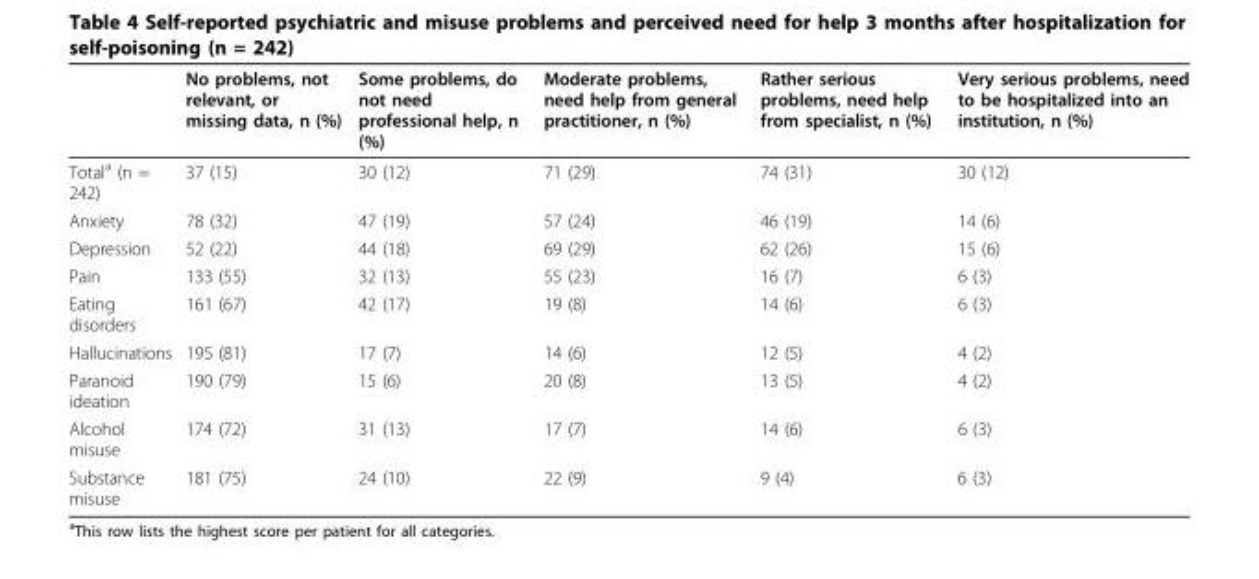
<table><thead><tr><td></td><td>No problems, not relevant, or missing data, n (%)</td><td>Some problems, do not need professional help, n (%)</td><td>Moderate problems, need help from general practitioner, n (%)</td><td>Rather serious problems, need help from specialist, n (%)</td><td>Very serious problems, need to be hospitalized into an institution, n (%)</td></tr></thead><tbody><tr><td>Total<sup>a</sup> (n = 242)</td><td>37 (15)</td><td>30 (12)</td><td>71 (29)</td><td>74 (31)</td><td>30 (12)</td></tr><tr><td>Anxiety</td><td>78 (32)</td><td>47 (19)</td><td>57 (24)</td><td>46 (19)</td><td>14 (6)</td></tr><tr><td>Depression</td><td>52 (22)</td><td>44 (18)</td><td>69 (29)</td><td>62 (26)</td><td>15 (6)</td></tr><tr><td>Pain</td><td>133 (55)</td><td>32 (13)</td><td>55 (23)</td><td>16 (7)</td><td>6 (3)</td></tr><tr><td>Eating disorders</td><td>161 (67)</td><td>42 (17)</td><td>19 (8)</td><td>14 (6)</td><td>6 (3)</td></tr><tr><td>Hallucinations</td><td>195 (81)</td><td>17 (7)</td><td>14 (6)</td><td>12 (5)</td><td>4 (2)</td></tr><tr><td>Paranoid ideation</td><td>190 (79)</td><td>15 (6)</td><td>20 (8)</td><td>13 (5)</td><td>4 (2)</td></tr><tr><td>Alcohol misuse</td><td>174 (72)</td><td>31 (13)</td><td>17 (7)</td><td>14 (6)</td><td>6 (3)</td></tr><tr><td>Substance misuse</td><td>181 (75)</td><td>24 (10)</td><td>22 (9)</td><td>9 (4)</td><td>6 (3)</td></tr></tbody></table>